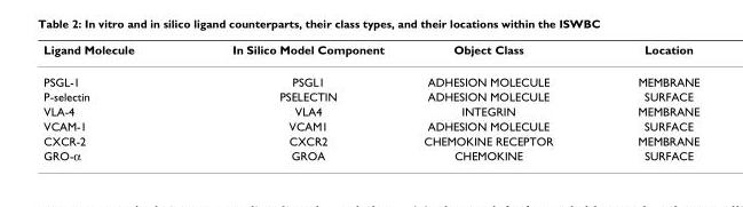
<table><thead><tr><td>Ligand Molecule</td><td>In Silico Model Component</td><td>Object Class</td><td>Location</td></tr></thead><tbody><tr><td>PSGL-1</td><td>PSGL1</td><td>ADHESION MOLECULE</td><td>MEMBRANE</td></tr><tr><td>P-selectin</td><td>PSELECTIN</td><td>ADHESION MOLECULE</td><td>SURFACE</td></tr><tr><td>VLA-4</td><td>VLA4</td><td>INTEGRIN</td><td>MEMBRANE</td></tr><tr><td>VCAM-1</td><td>VCAM1</td><td>ADHESION MOLECULE</td><td>SURFACE</td></tr><tr><td>CXCR-2</td><td>CXCR2</td><td>CHEMOKINE RECEPTOR</td><td>MEMBRANE</td></tr><tr><td>GRO-α</td><td>GROA</td><td>CHEMOKINE</td><td>SURFACE</td></tr></tbody></table>